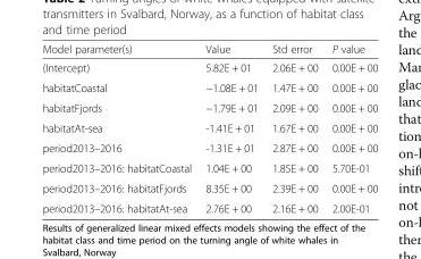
<table><thead><tr><td>Model parameter(s)</td><td>Value</td><td>Std error</td><td>P value</td></tr></thead><tbody><tr><td>(Intercept)</td><td>5.82E + 01</td><td>2.06E + 00</td><td>0.00E + 00</td></tr><tr><td>habitatCoastal</td><td>−1.08E + 01</td><td>1.47E + 00</td><td>0.00E + 00</td></tr><tr><td>habitatFjords</td><td>−1.79E + 01</td><td>2.09E + 00</td><td>0.00E + 00</td></tr><tr><td>habitatAt-sea</td><td>-1.41E + 01</td><td>1.67E + 00</td><td>0.00E + 00</td></tr><tr><td>period2013–2016</td><td>-1.31E + 01</td><td>2.87E + 00</td><td>0.00E + 00</td></tr><tr><td>period2013–2016: habitatCoastal</td><td>1.04E + 00</td><td>1.85E + 00</td><td>5.70E-01</td></tr><tr><td>period2013–2016: habitatFjords</td><td>8.35E + 00</td><td>2.39E + 00</td><td>0.00E + 00</td></tr><tr><td>period2013–2016: habitatAt-sea</td><td>2.76E + 00</td><td>2.16E + 00</td><td>2.00E-01</td></tr></tbody></table>